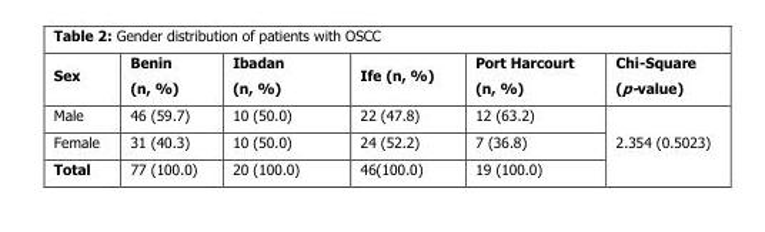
<table><thead><tr><td>Sex</td><td>Benin (n, %)</td><td>Ibadan (n, %)</td><td>Ife (n, %)</td><td>Port Harcourt (n, %)</td><td>Chi-Square (p-value)</td></tr></thead><tbody><tr><td>Male</td><td>46 (59.7)</td><td>10 (50.0)</td><td>22 (47.8)</td><td>12 (63.2)</td><td rowspan="3">2.354 (0.5023)</td></tr><tr><td>Female</td><td>31 (40.3)</td><td>10 (50.0)</td><td>24 (52.2)</td><td>7 (36.8)</td></tr><tr><td>Total</td><td>77 (100.0)</td><td>20 (100.0)</td><td>46(100.0)</td><td>19 (100.0)</td></tr></tbody></table>